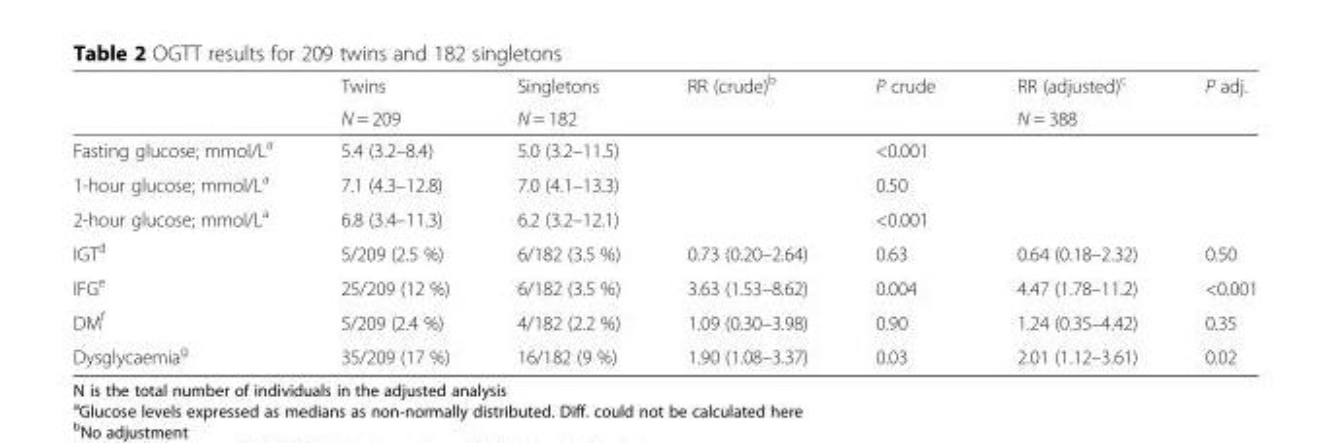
<table><thead><tr><td rowspan="2"></td><td rowspan="2">Twins N = 209</td><td rowspan="2">Singletons N = 182</td><td rowspan="2">RR (crude)<sup>b</sup></td><td rowspan="2">P crude</td><td rowspan="2">RR (adjusted)<sup>c</sup> N = 388</td><td rowspan="2">P adj.</td></tr><tr></tr></thead><tbody><tr><td>Fasting glucose; mmol/L<sup>a</sup></td><td>5.4 (3.2–8.4)</td><td>5.0 (3.2–11.5)</td><td></td><td>&lt;0.001</td><td></td><td></td></tr><tr><td>1-hour glucose; mmol/L<sup>a</sup></td><td>7.1 (4.3–12.8)</td><td>7.0 (4.1–13.3)</td><td></td><td>0.50</td><td></td><td></td></tr><tr><td>2-hour glucose; mmol/L<sup>a</sup></td><td>6.8 (3.4–11.3)</td><td>6.2 (3.2–12.1)</td><td></td><td>&lt;0.001</td><td></td><td></td></tr><tr><td>IGT<sup>d</sup></td><td>5/209 (2.5 %)</td><td>6/182 (3.5 %)</td><td>0.73 (0.20–2.64)</td><td>0.63</td><td>0.64 (0.18–2.32)</td><td>0.50</td></tr><tr><td>IFG<sup>e</sup></td><td>25/209 (12 %)</td><td>6/182 (3.5 %)</td><td>3.63 (1.53–8.62)</td><td>0.004</td><td>4.47 (1.78–11.2)</td><td>&lt;0.001</td></tr><tr><td>DM<sup>f</sup></td><td>5/209 (2.4 %)</td><td>4/182 (2.2 %)</td><td>1.09 (0.30–3.98)</td><td>0.90</td><td>1.24 (0.35–4.42)</td><td>0.35</td></tr><tr><td>Dysglycaemia<sup>g</sup></td><td>35/209 (17 %)</td><td>16/182 (9 %)</td><td>1.90 (1.08–3.37)</td><td>0.03</td><td>2.01 (1.12–3.61)</td><td>0.02</td></tr></tbody></table>